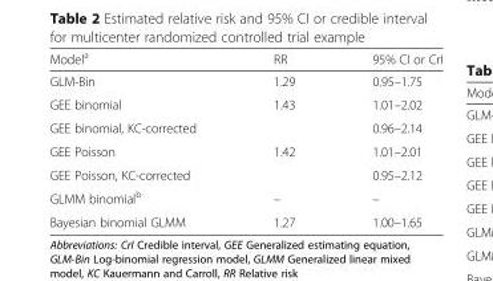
<table><thead><tr><td>Model<sup>a</sup></td><td>RR</td><td>95% CI or CrI</td></tr></thead><tbody><tr><td>GLM-Bin</td><td>1.29</td><td>0.95–1.75</td></tr><tr><td>GEE binomial</td><td>1.43</td><td>1.01–2.02</td></tr><tr><td>GEE binomial, KC-corrected</td><td></td><td>0.96–2.14</td></tr><tr><td>GEE Poisson</td><td>1.42</td><td>1.01–2.01</td></tr><tr><td>GEE Poisson, KC-corrected</td><td></td><td>0.95–2.12</td></tr><tr><td>GLMM binomial<sup>b</sup></td><td>–</td><td>–</td></tr><tr><td>Bayesian binomial GLMM</td><td>1.27</td><td>1.00–1.65</td></tr></tbody></table>